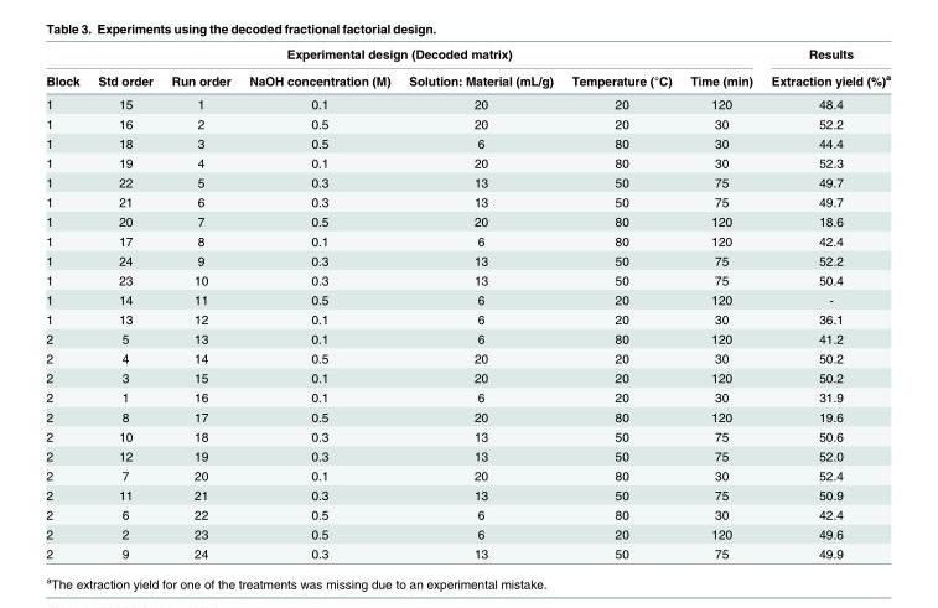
<table><thead><tr><td colspan="7">Experimental design (Decoded matrix)</td><td rowspan="2">Results Extraction yield (%)<sup>a</sup></td></tr><tr><td>Block</td><td>Std order</td><td>Run order</td><td>NaOH concentration (M)</td><td>Solution: Material (mL/g)</td><td>Temperature (°C)</td><td>Time (min)</td></tr></thead><tbody><tr><td>1</td><td>15</td><td>1</td><td>0.1</td><td>20</td><td>20</td><td>120</td><td>48.4</td></tr><tr><td>1</td><td>16</td><td>2</td><td>0.5</td><td>20</td><td>20</td><td>30</td><td>52.2</td></tr><tr><td>1</td><td>18</td><td>3</td><td>0.5</td><td>6</td><td>80</td><td>30</td><td>44.4</td></tr><tr><td>1</td><td>19</td><td>4</td><td>0.1</td><td>20</td><td>80</td><td>30</td><td>52.3</td></tr><tr><td>1</td><td>22</td><td>5</td><td>0.3</td><td>13</td><td>50</td><td>75</td><td>49.7</td></tr><tr><td>1</td><td>21</td><td>6</td><td>0.3</td><td>13</td><td>50</td><td>75</td><td>49.7</td></tr><tr><td>1</td><td>20</td><td>7</td><td>0.5</td><td>20</td><td>80</td><td>120</td><td>18.6</td></tr><tr><td>1</td><td>17</td><td>8</td><td>0.1</td><td>6</td><td>80</td><td>120</td><td>42.4</td></tr><tr><td>1</td><td>24</td><td>9</td><td>0.3</td><td>13</td><td>50</td><td>75</td><td>52.2</td></tr><tr><td>1</td><td>23</td><td>10</td><td>0.3</td><td>13</td><td>50</td><td>75</td><td>50.4</td></tr><tr><td>1</td><td>14</td><td>11</td><td>0.5</td><td>6</td><td>20</td><td>120</td><td>-</td></tr><tr><td>1</td><td>13</td><td>12</td><td>0.1</td><td>6</td><td>20</td><td>30</td><td>36.1</td></tr><tr><td>2</td><td>5</td><td>13</td><td>0.1</td><td>6</td><td>80</td><td>120</td><td>41.2</td></tr><tr><td>2</td><td>4</td><td>14</td><td>0.5</td><td>20</td><td>20</td><td>30</td><td>50.2</td></tr><tr><td>2</td><td>3</td><td>15</td><td>0.1</td><td>20</td><td>20</td><td>120</td><td>50.2</td></tr><tr><td>2</td><td>1</td><td>16</td><td>0.1</td><td>6</td><td>20</td><td>30</td><td>31.9</td></tr><tr><td>2</td><td>8</td><td>17</td><td>0.5</td><td>20</td><td>80</td><td>120</td><td>19.6</td></tr><tr><td>2</td><td>10</td><td>18</td><td>0.3</td><td>13</td><td>50</td><td>75</td><td>50.6</td></tr><tr><td>2</td><td>12</td><td>19</td><td>0.3</td><td>13</td><td>50</td><td>75</td><td>52.0</td></tr><tr><td>2</td><td>7</td><td>20</td><td>0.1</td><td>20</td><td>80</td><td>30</td><td>52.4</td></tr><tr><td>2</td><td>11</td><td>21</td><td>0.3</td><td>13</td><td>50</td><td>75</td><td>50.9</td></tr><tr><td>2</td><td>6</td><td>22</td><td>0.5</td><td>6</td><td>80</td><td>30</td><td>42.4</td></tr><tr><td>2</td><td>2</td><td>23</td><td>0.5</td><td>6</td><td>20</td><td>120</td><td>49.6</td></tr><tr><td>2</td><td>9</td><td>24</td><td>0.3</td><td>13</td><td>50</td><td>75</td><td>49.9</td></tr></tbody></table>